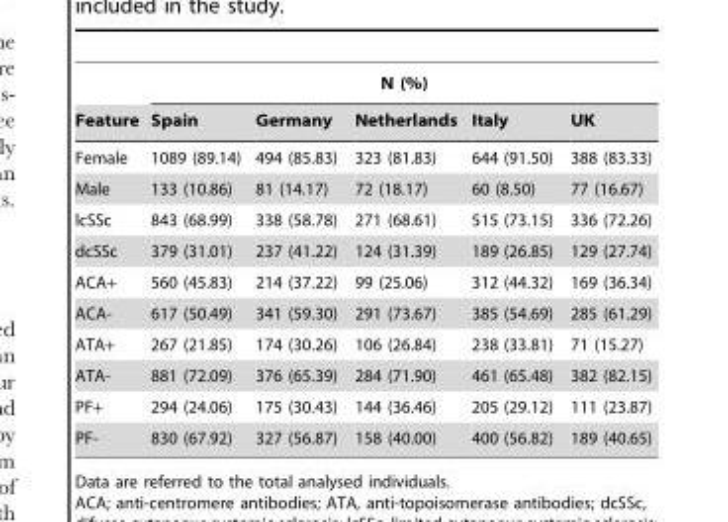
<table><thead><tr><td rowspan="2">Feature</td><td colspan="5">N (%)</td></tr><tr><td>Spain</td><td>Germany</td><td>Netherlands</td><td>Italy</td><td>UK</td></tr></thead><tbody><tr><td>Female</td><td>1089 (89.14)</td><td>494 (85.83)</td><td>323 (81.83)</td><td>644 (91.50)</td><td>388 (83.33)</td></tr><tr><td>Male</td><td>133 (10.86)</td><td>81 (14.17)</td><td>72 (18.17)</td><td>60 (8.50)</td><td>77 (16.67)</td></tr><tr><td>lcSSc</td><td>843 (68.99)</td><td>338 (58.78)</td><td>271 (68.61)</td><td>515 (73.15)</td><td>336 (72.26)</td></tr><tr><td>dcSSc</td><td>379 (31.01)</td><td>237 (41.22)</td><td>124 (31.39)</td><td>189 (26.85)</td><td>129 (27.74)</td></tr><tr><td>ACA+</td><td>560 (45.83)</td><td>214 (37.22)</td><td>99 (25.06)</td><td>312 (44.32)</td><td>169 (36.34)</td></tr><tr><td>ACA-</td><td>617 (50.49)</td><td>341 (59.30)</td><td>291 (73.67)</td><td>385 (54.69)</td><td>285 (61.29)</td></tr><tr><td>ATA+</td><td>267 (21.85)</td><td>174 (30.26)</td><td>106 (26.84)</td><td>238 (33.81)</td><td>71 (15.27)</td></tr><tr><td>ATA-</td><td>881 (72.09)</td><td>376 (65.39)</td><td>284 (71.90)</td><td>461 (65.48)</td><td>382 (82.15)</td></tr><tr><td>PF+</td><td>294 (24.06)</td><td>175 (30.43)</td><td>144 (36.46)</td><td>205 (29.12)</td><td>111 (23.87)</td></tr><tr><td>PF-</td><td>830 (67.92)</td><td>327 (56.87)</td><td>158 (40.00)</td><td>400 (56.82)</td><td>189 (40.65)</td></tr></tbody></table>